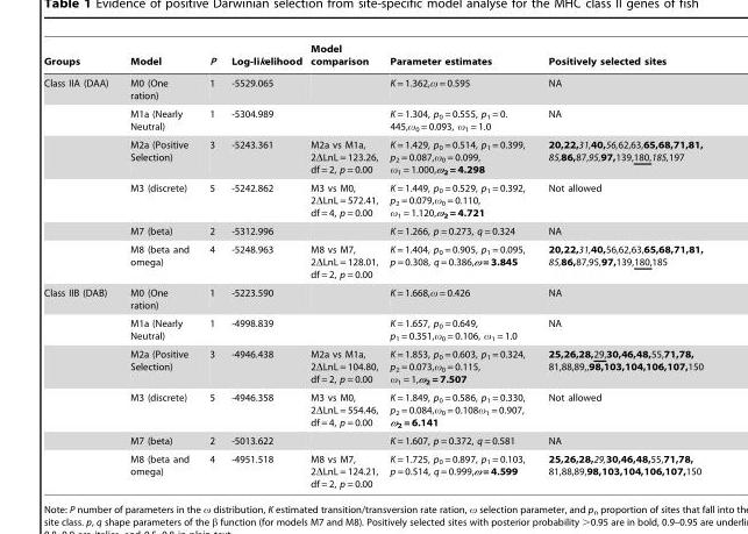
<table><thead><tr><td>Groups</td><td>Model</td><td>P</td><td>Log-likelihood</td><td>Model comparison</td><td>Parameter estimates</td><td>Positively selected sites</td></tr></thead><tbody><tr><td rowspan="6">Class IIA (DAA)</td><td>M0 (One ration)</td><td>1</td><td>-5529.065</td><td></td><td>K = 1.362,ω = 0.595</td><td>NA</td></tr><tr><td>M1a (Nearly Neutral)</td><td>1</td><td>-5304.989</td><td></td><td>K = 1.304, p<sub>0</sub> = 0.555, p<sub>1</sub> = 0. 445,ω<sub>0</sub> = 0.093, ω<sub>1</sub> = 1.0</td><td>NA</td></tr><tr><td>M2a (Positive Selection)</td><td>3</td><td>-5243.361</td><td>M2a vs M1a, 2ΔLnL = 123.26, df = 2, p = 0.00</td><td>K = 1.429, p<sub>0</sub> = 0.514, p<sub>1</sub> = 0.399, p<sub>2</sub> = 0.087,ω<sub>0</sub> = 0.099, ω<sub>1</sub> = 1.000,ω<sub>2</sub> = 4.298</td><td>20,22,31,40,56,62,63,65,68,71,81, 85,86,87,95,97,139,180,185,197</td></tr><tr><td>M3 (discrete)</td><td>5</td><td>-5242.862</td><td>M3 vs M0, 2ΔLnL = 572.41, df = 4, p = 0.00</td><td>K = 1.449, p<sub>0</sub> = 0.529, p<sub>1</sub> = 0.392, p<sub>2</sub> = 0.079,ω<sub>0</sub> = 0.110, ω<sub>1</sub> = 1.120,ω<sub>2</sub> = 4.721</td><td>Not allowed</td></tr><tr><td>M7 (beta)</td><td>2</td><td>-5312.996</td><td></td><td>K = 1.266, p = 0.273, q = 0.324</td><td>NA</td></tr><tr><td>M8 (beta and omega)</td><td>4</td><td>-5248.963</td><td>M8 vs M7, 2ΔLnL = 128.01, df = 2, p = 0.00</td><td>K = 1.404, p<sub>0</sub> = 0.905, p<sub>1</sub> = 0.095, p = 0.308, q = 0.386,ω = 3.845</td><td>20,22,31,40,56,62,63,65,68,71,81, 85,86,87,95,97,139,180,185</td></tr><tr><td rowspan="6">Class IIB (DAB)</td><td>M0 (One ration)</td><td>1</td><td>-5223.590</td><td></td><td>K = 1.668,ω = 0.426</td><td>NA</td></tr><tr><td>M1a (Nearly Neutral)</td><td>1</td><td>-4998.839</td><td></td><td>K = 1.657, p<sub>0</sub> = 0.649, p<sub>1</sub> = 0.351,ω<sub>0</sub> = 0.106, ω<sub>1</sub> = 1.0</td><td>NA</td></tr><tr><td>M2a (Positive Selection)</td><td>3</td><td>-4946.438</td><td>M2a vs M1a, 2ΔLnL = 104.80, df = 2, p = 0.00</td><td>K = 1.853, p<sub>0</sub> = 0.603, p<sub>1</sub> = 0.324, p<sub>2</sub> = 0.073,ω<sub>0</sub> = 0.115, ω<sub>1</sub> = 1,ω<sub>2</sub> = 7.507</td><td>25,26,28,29,30,46,48,55,71,78, 81,88,89,,98,103,104,106,107,150</td></tr><tr><td>M3 (discrete)</td><td>5</td><td>-4946.358</td><td>M3 vs M0, 2ΔLnL = 554.46, df = 4, p = 0.00</td><td>K = 1.849, p<sub>0</sub> = 0.586, p<sub>1</sub> = 0.330, p<sub>2</sub> = 0.084,ω<sub>0</sub> = 0.108ω<sub>1</sub> = 0.907, ω<sub>2</sub> = 6.141</td><td>Not allowed</td></tr><tr><td>M7 (beta)</td><td>2</td><td>-5013.622</td><td></td><td>K = 1.607, p = 0.372, q = 0.581</td><td>NA</td></tr><tr><td>M8 (beta and omega)</td><td>4</td><td>-4951.518</td><td>M8 vs M7, 2ΔLnL = 124.21, df = 2, p = 0.00</td><td>K = 1.725, p<sub>0</sub> = 0.897, p<sub>1</sub> = 0.103, p = 0.514, q = 0.999,ω = 4.599</td><td>25,26,28,29,30,46,48,55,71,78, 81,88,89,98,103,104,106,107,150</td></tr></tbody></table>